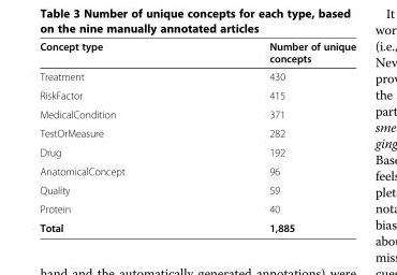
<table><thead><tr><td>Concept type</td><td>Number of unique concepts</td></tr></thead><tbody><tr><td>Treatment</td><td>430</td></tr><tr><td>RiskFactor</td><td>415</td></tr><tr><td>MedicalCondition</td><td>371</td></tr><tr><td>TestOrMeasure</td><td>282</td></tr><tr><td>Drug</td><td>192</td></tr><tr><td>AnatomicalConcept</td><td>96</td></tr><tr><td>Quality</td><td>59</td></tr><tr><td>Protein</td><td>40</td></tr><tr><td>Total</td><td>1,885</td></tr></tbody></table>